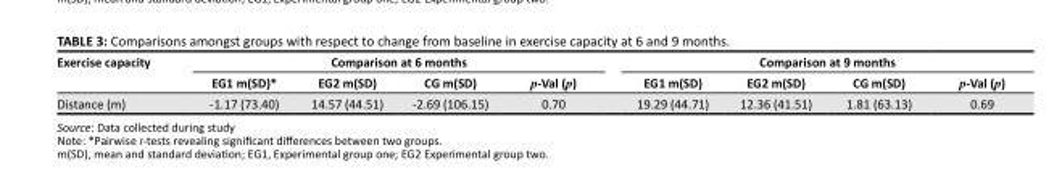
<table><thead><tr><td rowspan="2">Exercise capacity</td><td colspan="4">Comparison at 6 months</td><td colspan="4">Comparison at 9 months</td></tr><tr><td>EG1 m(SD)*</td><td>EG2 m(SD)</td><td>CG m(SD)</td><td>p-Val (p)</td><td>EG1 m(SD)</td><td>EG2 m(SD)</td><td>CG m(SD)</td><td>p-Val (p)</td></tr></thead><tbody><tr><td>Distance (m)</td><td>-1.17 (73.40)</td><td>14.57 (44.51)</td><td>-2.69 (106.15)</td><td>0.70</td><td>19.29 (44.71)</td><td>12.36 (41.51)</td><td>1.81 (63.13)</td><td>0.69</td></tr></tbody></table>